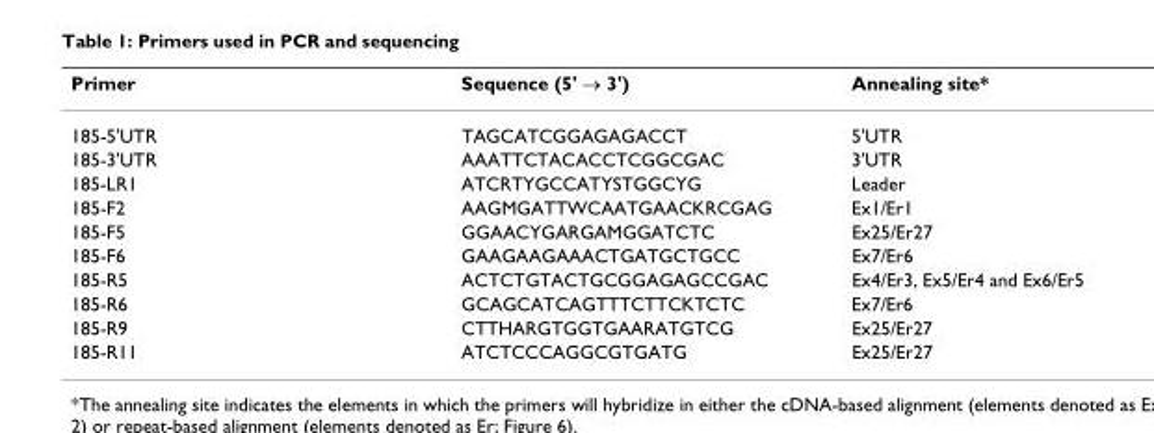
<table><thead><tr><td>Primer</td><td>Sequence (5&#x27; → 3&#x27;)</td><td>Annealing site*</td></tr></thead><tbody><tr><td>185-5&#x27;UTR</td><td>TAGCATCGGAGAGACCT</td><td>5&#x27;UTR</td></tr><tr><td>185-3&#x27;UTR</td><td>AAATTCTACACCTCGGCGAC</td><td>3&#x27;UTR</td></tr><tr><td>185-LR1</td><td>ATCRTYGCCATYSTGGCYG</td><td>Leader</td></tr><tr><td>185-F2</td><td>AAGMGATTWCAATGAACKRCGAG</td><td>Ex1/Er1</td></tr><tr><td>185-F5</td><td>GGAACYGARGAMGGATCTC</td><td>Ex25/Er27</td></tr><tr><td>185-F6</td><td>GAAGAAGAAACTGATGCTGCC</td><td>Ex7/Er6</td></tr><tr><td>185-R5</td><td>ACTCTGTACTGCGGAGAGCCGAC</td><td>Ex4/Er3, Ex5/Er4 and Ex6/Er5</td></tr><tr><td>185-R6</td><td>GCAGCATCAGTTTCTTCKTCTC</td><td>Ex7/Er6</td></tr><tr><td>185-R9</td><td>CTTHARGTGGTGAARATGTCG</td><td>Ex25/Er27</td></tr><tr><td>185-R11</td><td>ATCTCCCAGGCGTGATG</td><td>Ex25/Er27</td></tr></tbody></table>